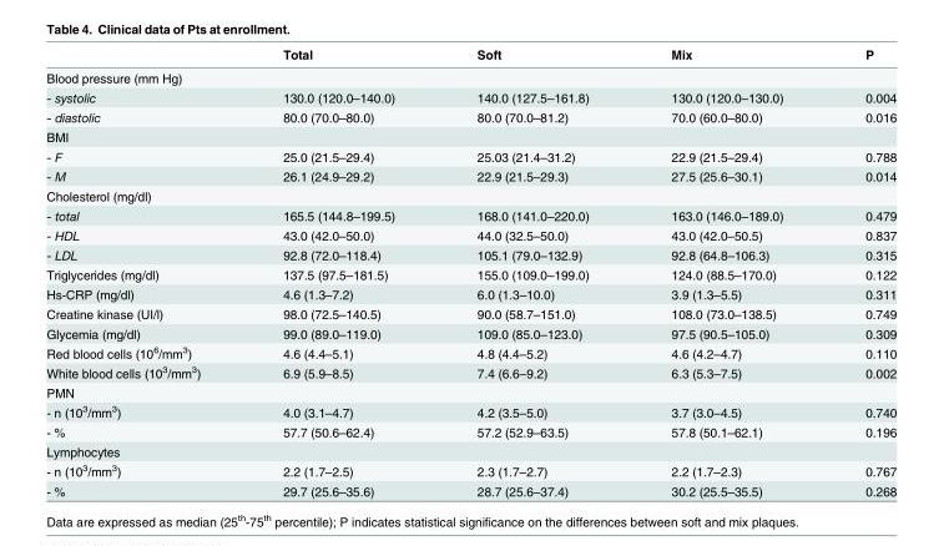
<table><thead><tr><td></td><td>Total</td><td>Soft</td><td>Mix</td><td>P</td></tr></thead><tbody><tr><td colspan="5">Blood pressure (mm Hg)</td></tr><tr><td>- systolic</td><td>130.0 (120.0–140.0)</td><td>140.0 (127.5–161.8)</td><td>130.0 (120.0–130.0)</td><td>0.004</td></tr><tr><td>- diastolic</td><td>80.0 (70.0–80.0)</td><td>80.0 (70.0–81.2)</td><td>70.0 (60.0–80.0)</td><td>0.016</td></tr><tr><td colspan="5">BMI</td></tr><tr><td>- F</td><td>25.0 (21.5–29.4)</td><td>25.03 (21.4–31.2)</td><td>22.9 (21.5–29.4)</td><td>0.788</td></tr><tr><td>- M</td><td>26.1 (24.9–29.2)</td><td>22.9 (21.5–29.3)</td><td>27.5 (25.6–30.1)</td><td>0.014</td></tr><tr><td colspan="5">Cholesterol (mg/dl)</td></tr><tr><td>- total</td><td>165.5 (144.8–199.5)</td><td>168.0 (141.0–220.0)</td><td>163.0 (146.0–189.0)</td><td>0.479</td></tr><tr><td>- HDL</td><td>43.0 (42.0–50.0)</td><td>44.0 (32.5–50.0)</td><td>43.0 (42.0–50.5)</td><td>0.837</td></tr><tr><td>- LDL</td><td>92.8 (72.0–118.4)</td><td>105.1 (79.0–132.9)</td><td>92.8 (64.8–106.3)</td><td>0.315</td></tr><tr><td>Triglycerides (mg/dl)</td><td>137.5 (97.5–181.5)</td><td>155.0 (109.0–199.0)</td><td>124.0 (88.5–170.0)</td><td>0.122</td></tr><tr><td>Hs-CRP (mg/dl)</td><td>4.6 (1.3–7.2)</td><td>6.0 (1.3–10.0)</td><td>3.9 (1.3–5.5)</td><td>0.311</td></tr><tr><td>Creatine kinase (UI/l)</td><td>98.0 (72.5–140.5)</td><td>90.0 (58.7–151.0)</td><td>108.0 (73.0–138.5)</td><td>0.749</td></tr><tr><td>Glycemia (mg/dl)</td><td>99.0 (89.0–119.0)</td><td>109.0 (85.0–123.0)</td><td>97.5 (90.5–105.0)</td><td>0.309</td></tr><tr><td>Red blood cells (10<sup>6</sup>/mm<sup>3</sup>)</td><td>4.6 (4.4–5.1)</td><td>4.8 (4.4–5.2)</td><td>4.6 (4.2–4.7)</td><td>0.110</td></tr><tr><td>White blood cells (10<sup>3</sup>/mm<sup>3</sup>)</td><td>6.9 (5.9–8.5)</td><td>7.4 (6.6–9.2)</td><td>6.3 (5.3–7.5)</td><td>0.002</td></tr><tr><td colspan="5">PMN</td></tr><tr><td>- n (10<sup>3</sup>/mm<sup>3</sup>)</td><td>4.0 (3.1–4.7)</td><td>4.2 (3.5–5.0)</td><td>3.7 (3.0–4.5)</td><td>0.740</td></tr><tr><td>- %</td><td>57.7 (50.6–62.4)</td><td>57.2 (52.9–63.5)</td><td>57.8 (50.1–62.1)</td><td>0.196</td></tr><tr><td colspan="5">Lymphocytes</td></tr><tr><td>- n (10<sup>3</sup>/mm<sup>3</sup>)</td><td>2.2 (1.7–2.5)</td><td>2.3 (1.7–2.7)</td><td>2.2 (1.7–2.3)</td><td>0.767</td></tr><tr><td>- %</td><td>29.7 (25.6–35.6)</td><td>28.7 (25.6–37.4)</td><td>30.2 (25.5–35.5)</td><td>0.268</td></tr></tbody></table>